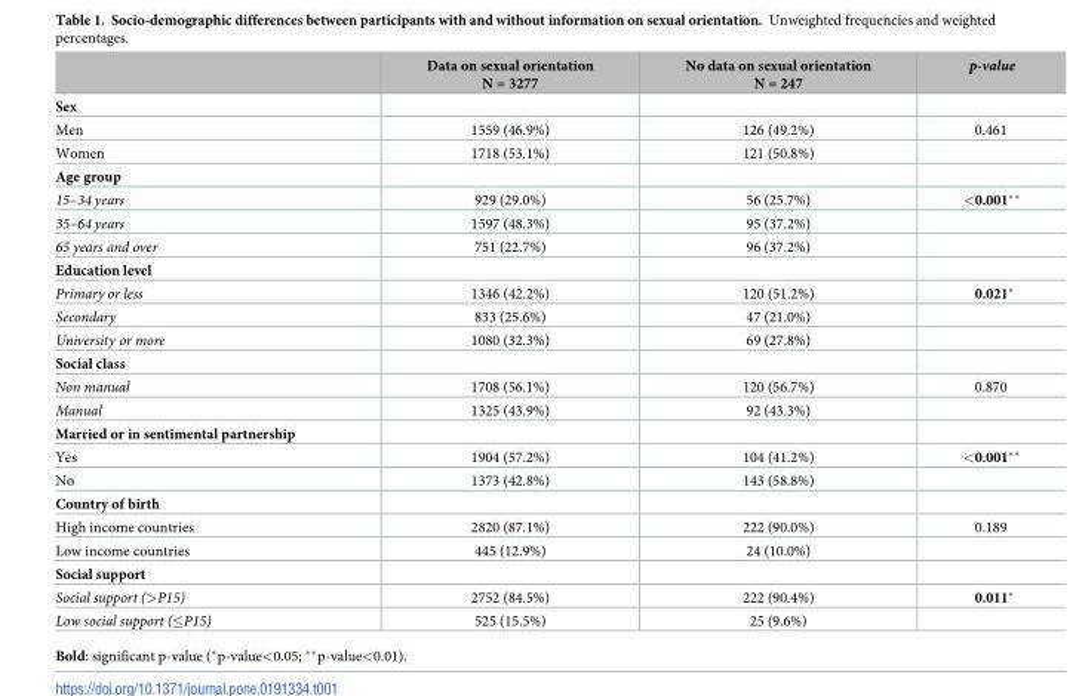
<table><thead><tr><td></td><td>Data on sexual orientation N = 3277</td><td>No data on sexual orientation N = 247</td><td>p-value</td></tr></thead><tbody><tr><td colspan="4">Sex</td></tr><tr><td>Men</td><td>1559 (46.9%)</td><td>126 (49.2%)</td><td>0.461</td></tr><tr><td>Women</td><td>1718 (53.1%)</td><td>121 (50.8%)</td><td></td></tr><tr><td colspan="4">Age group</td></tr><tr><td>15–34 years</td><td>929 (29.0%)</td><td>56 (25.7%)</td><td>&lt;0.001**</td></tr><tr><td>35–64 years</td><td>1597 (48.3%)</td><td>95 (37.2%)</td><td></td></tr><tr><td>65 years and over</td><td>751 (22.7%)</td><td>96 (37.2%)</td><td></td></tr><tr><td colspan="4">Education level</td></tr><tr><td>Primary or less</td><td>1346 (42.2%)</td><td>120 (51.2%)</td><td>0.021*</td></tr><tr><td>Secondary</td><td>833 (25.6%)</td><td>47 (21.0%)</td><td></td></tr><tr><td>University or more</td><td>1080 (32.3%)</td><td>69 (27.8%)</td><td></td></tr><tr><td colspan="4">Social class</td></tr><tr><td>Non manual</td><td>1708 (56.1%)</td><td>120 (56.7%)</td><td>0.870</td></tr><tr><td>Manual</td><td>1325 (43.9%)</td><td>92 (43.3%)</td><td></td></tr><tr><td colspan="4">Married or in sentimental partnership</td></tr><tr><td>Yes</td><td>1904 (57.2%)</td><td>104 (41.2%)</td><td>&lt;0.001**</td></tr><tr><td>No</td><td>1373 (42.8%)</td><td>143 (58.8%)</td><td></td></tr><tr><td colspan="4">Country of birth</td></tr><tr><td>High income countries</td><td>2820 (87.1%)</td><td>222 (90.0%)</td><td>0.189</td></tr><tr><td>Low income countries</td><td>445 (12.9%)</td><td>24 (10.0%)</td><td></td></tr><tr><td colspan="4">Social support</td></tr><tr><td>Social support (&gt;P15)</td><td>2752 (84.5%)</td><td>222 (90.4%)</td><td>0.011*</td></tr><tr><td>Low social support (≤P15)</td><td>525 (15.5%)</td><td>25 (9.6%)</td><td></td></tr></tbody></table>